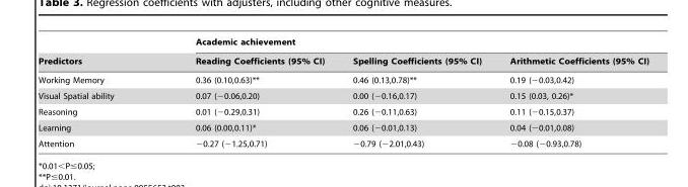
<table><thead><tr><td rowspan="2">Predictors</td><td colspan="3">Academic achievement</td></tr><tr><td>Reading Coefficients (95% CI)</td><td>Spelling Coefficients (95% CI)</td><td>Arithmetic Coefficients (95% CI)</td></tr></thead><tbody><tr><td>Working Memory</td><td>0.36 (0.10,0.63)**</td><td>0.46 (0.13,0.78)**</td><td>0.19 (−0.03,0.42)</td></tr><tr><td>Visual Spatial ability</td><td>0.07 (−0.06,0.20)</td><td>0.00 (−0.16,0.17)</td><td>0.15 (0.03, 0.26)*</td></tr><tr><td>Reasoning</td><td>0.01 (−0.29,0.31)</td><td>0.26 (−0.11,0.63)</td><td>0.11 (−0.15,0.37)</td></tr><tr><td>Learning</td><td>0.06 (0.00,0.11)*</td><td>0.06 (−0.01,0.13)</td><td>0.04 (−0.01,0.08)</td></tr><tr><td>Attention</td><td>−0.27 (−1.25,0.71)</td><td>−0.79 (−2.01,0.43)</td><td>−0.08 (−0.93,0.78)</td></tr></tbody></table>